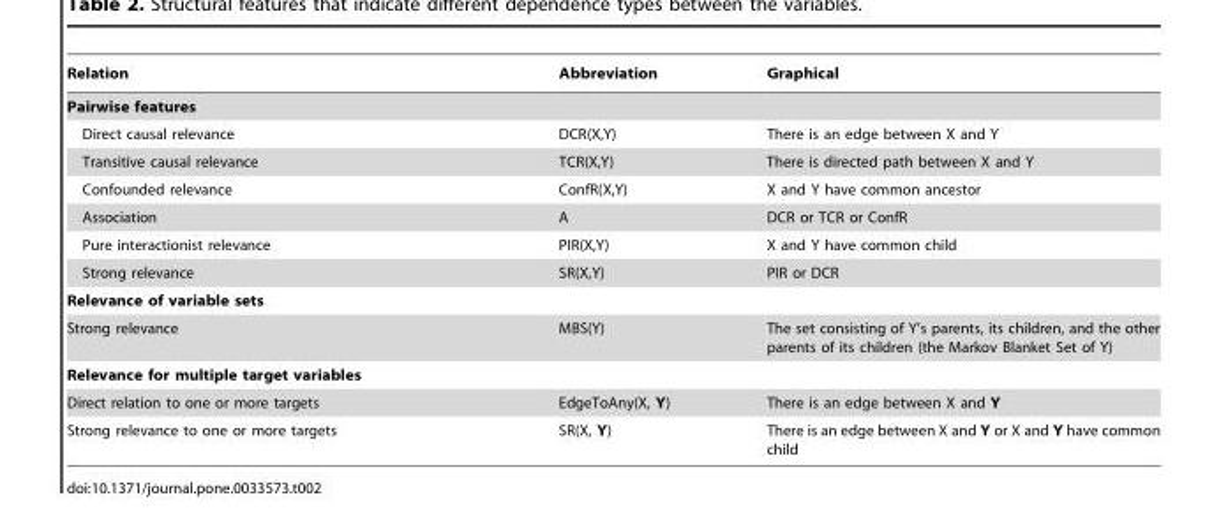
<table><thead><tr><td>Relation</td><td>Abbreviation</td><td>Graphical</td></tr></thead><tbody><tr><td colspan="3">Pairwise features</td></tr><tr><td>Direct causal relevance</td><td>DCR(X,Y)</td><td>There is an edge between X and Y</td></tr><tr><td>Transitive causal relevance</td><td>TCR(X,Y)</td><td>There is directed path between X and Y</td></tr><tr><td>Confounded relevance</td><td>ConfR(X,Y)</td><td>X and Y have common ancestor</td></tr><tr><td>Association</td><td>A</td><td>DCR or TCR or ConfR</td></tr><tr><td>Pure interactionist relevance</td><td>PIR(X,Y)</td><td>X and Y have common child</td></tr><tr><td>Strong relevance</td><td>SR(X,Y)</td><td>PIR or DCR</td></tr><tr><td colspan="3">Relevance of variable sets</td></tr><tr><td>Strong relevance</td><td>MBS(Y)</td><td>The set consisting of Y’s parents, its children, and the other parents of its children (the Markov Blanket Set of Y)</td></tr><tr><td colspan="3">Relevance for multiple target variables</td></tr><tr><td>Direct relation to one or more targets</td><td>EdgeToAny(X, Y)</td><td>There is an edge between X and Y</td></tr><tr><td>Strong relevance to one or more targets</td><td>SR(X, Y)</td><td>There is an edge between X and Y or X and Y have common child</td></tr></tbody></table>